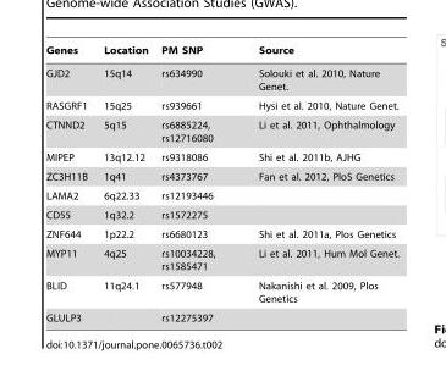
<table><thead><tr><td>Genes</td><td>Location</td><td>PM SNP</td><td>Source</td></tr></thead><tbody><tr><td>GJD2</td><td>15q14</td><td>rs634990</td><td>Solouki et al. 2010, Nature Genet.</td></tr><tr><td>RASGRF1</td><td>15q25</td><td>rs939661</td><td>Hysi et al. 2010, Nature Genet.</td></tr><tr><td>CTNND2</td><td>5q15</td><td>rs6885224, rs12716080</td><td>Li et al. 2011, Ophthalmology</td></tr><tr><td>MIPEP</td><td>13q12.12</td><td>rs9318086</td><td>Shi et al. 2011b, AJHG</td></tr><tr><td>ZC3H11B</td><td>1q41</td><td>rs4373767</td><td>Fan et al. 2012, PloS Genetics</td></tr><tr><td>LAMA2</td><td>6q22.33</td><td>rs12193446</td><td></td></tr><tr><td>CD55</td><td>1q32.2</td><td>rs1572275</td><td></td></tr><tr><td>ZNF644</td><td>1p22.2</td><td>rs6680123</td><td>Shi et al. 2011a, Plos Genetics</td></tr><tr><td>MYP11</td><td>4q25</td><td>rs10034228, rs1585471</td><td>Li et al. 2011, Hum Mol Genet.</td></tr><tr><td>BLID</td><td>11q24.1</td><td>rs577948</td><td>Nakanishi et al. 2009, Plos Genetics</td></tr><tr><td>GLULP3</td><td></td><td>rs12275397</td><td></td></tr></tbody></table>